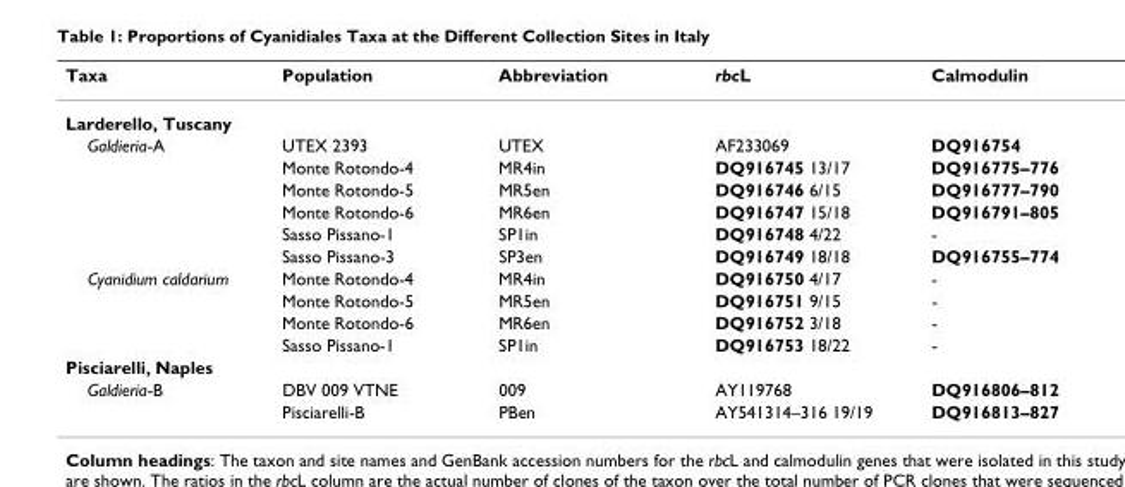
<table><thead><tr><td>Taxa</td><td>Population</td><td>Abbreviation</td><td>rbcL</td><td>Calmodulin</td></tr></thead><tbody><tr><td colspan="5">Larderello, Tuscany</td></tr><tr><td rowspan="6">Galdieria-A</td><td>UTEX 2393</td><td>UTEX</td><td>AF233069</td><td>DQ916754</td></tr><tr><td>Monte Rotondo-4</td><td>MR4in</td><td>DQ916745 13/17</td><td>DQ916775–776</td></tr><tr><td>Monte Rotondo-5</td><td>MR5en</td><td>DQ916746 6/15</td><td>DQ916777–790</td></tr><tr><td>Monte Rotondo-6</td><td>MR6en</td><td>DQ916747 15/18</td><td>DQ916791–805</td></tr><tr><td>Sasso Pissano-1</td><td>SP1in</td><td>DQ916748 4/22</td><td>-</td></tr><tr><td>Sasso Pissano-3</td><td>SP3en</td><td>DQ916749 18/18</td><td>DQ916755–774</td></tr><tr><td rowspan="4">Cyanidium caldarium</td><td>Monte Rotondo-4</td><td>MR4in</td><td>DQ916750 4/17</td><td>-</td></tr><tr><td>Monte Rotondo-5</td><td>MR5en</td><td>DQ916751 9/15</td><td>-</td></tr><tr><td>Monte Rotondo-6</td><td>MR6en</td><td>DQ916752 3/18</td><td>-</td></tr><tr><td>Sasso Pissano-1</td><td>SP1in</td><td>DQ916753 18/22</td><td>-</td></tr><tr><td colspan="5">Pisciarelli, Naples</td></tr><tr><td rowspan="2">Galdieria-B</td><td>DBV 009 VTNE</td><td>009</td><td>AY119768</td><td>DQ916806–812</td></tr><tr><td>Pisciarelli-B</td><td>PBen</td><td>AY541314–316 19/19</td><td>DQ916813–827</td></tr></tbody></table>